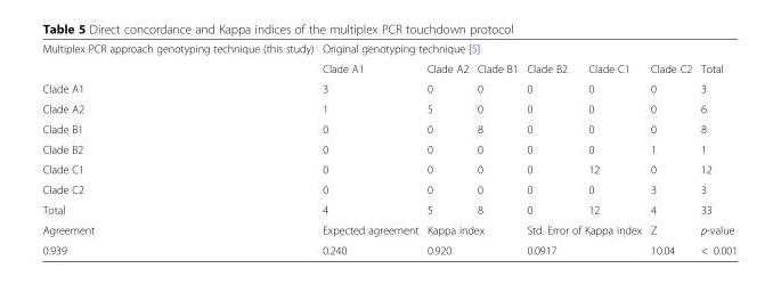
<table><tbody><tr><td rowspan="2">Multiplex PCR approach genotyping technique (this study)</td><td colspan="7">Original genotyping technique [5]</td></tr><tr><td>Clade A1</td><td>Clade A2</td><td>Clade B1</td><td>Clade B2</td><td>Clade C1</td><td>Clade C2</td><td>Total</td></tr><tr><td>Clade A1</td><td>3</td><td>0</td><td>0</td><td>0</td><td>0</td><td>0</td><td>3</td></tr><tr><td>Clade A2</td><td>1</td><td>5</td><td>0</td><td>0</td><td>0</td><td>0</td><td>6</td></tr><tr><td>Clade B1</td><td>0</td><td>0</td><td>8</td><td>0</td><td>0</td><td>0</td><td>8</td></tr><tr><td>Clade B2</td><td>0</td><td>0</td><td>0</td><td>0</td><td>0</td><td>1</td><td>1</td></tr><tr><td>Clade C1</td><td>0</td><td>0</td><td>0</td><td>0</td><td>12</td><td>0</td><td>12</td></tr><tr><td>Clade C2</td><td>0</td><td>0</td><td>0</td><td>0</td><td>0</td><td>3</td><td>3</td></tr><tr><td>Total</td><td>4</td><td>5</td><td>8</td><td>0</td><td>12</td><td>4</td><td>33</td></tr><tr><td>Agreement</td><td>Expected agreement</td><td colspan="2">Kappa index</td><td colspan="2">Std. Error of Kappa index</td><td>Z</td><td>p-value</td></tr><tr><td>0.939</td><td>0.240</td><td colspan="2">0.920</td><td colspan="2">0.0917</td><td>10.04</td><td>&lt; 0.001</td></tr></tbody></table>